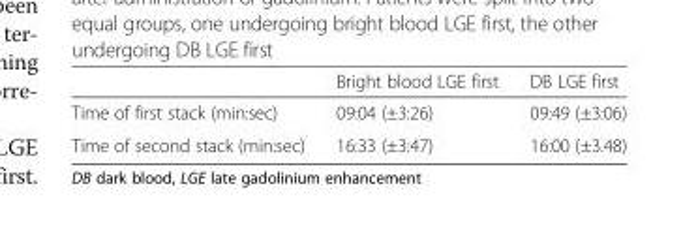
<table><thead><tr><td></td><td>Bright blood LGE first</td><td>DB LGE first</td></tr></thead><tbody><tr><td>Time of first stack (min:sec)</td><td>09:04 (±3:26)</td><td>09:49 (±3:06)</td></tr><tr><td>Time of second stack (min:sec)</td><td>16:33 (±3:47)</td><td>16:00 (±3.48)</td></tr></tbody></table>